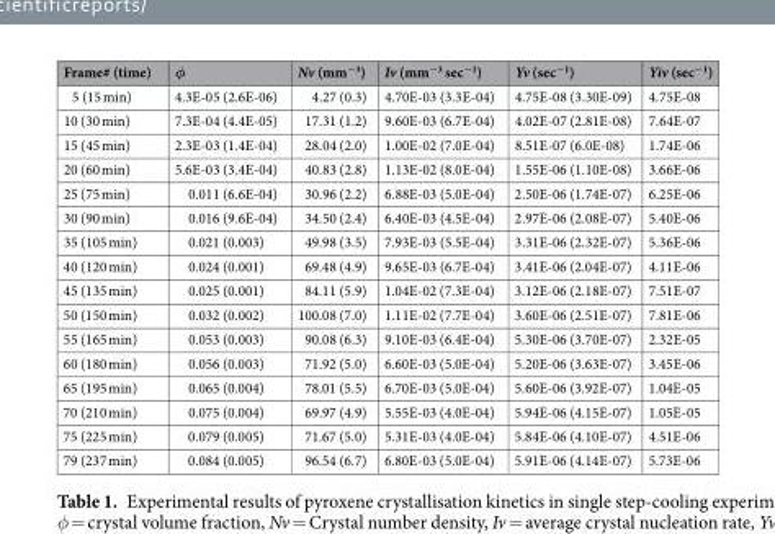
<table><thead><tr><td>Frame# (time)</td><td>φ</td><td>Nv (mm<sup>−3</sup>)</td><td>Iv (mm<sup>−3</sup> sec<sup>−1</sup>)</td><td>Yv (sec<sup>−1</sup>)</td><td>Yiv (sec<sup>−1</sup>)</td></tr></thead><tbody><tr><td>5 (15 min)</td><td>4.3E-05 (2.6E-06)</td><td>4.27 (0.3)</td><td>4.70E-03 (3.3E-04)</td><td>4.75E-08 (3.30E-09)</td><td>4.75E-08</td></tr><tr><td>10 (30 min)</td><td>7.3E-04 (4.4E-05)</td><td>17.31 (1.2)</td><td>9.60E-03 (6.7E-04)</td><td>4.02E-07 (2.81E-08)</td><td>7.64E-07</td></tr><tr><td>15 (45 min)</td><td>2.3E-03 (1.4E-04)</td><td>28.04 (2.0)</td><td>1.00E-02 (7.0E-04)</td><td>8.51E-07 (6.0E-08)</td><td>1.74E-06</td></tr><tr><td>20 (60 min)</td><td>5.6E-03 (3.4E-04)</td><td>40.83 (2.8)</td><td>1.13E-02 (8.0E-04)</td><td>1.55E-06 (1.10E-08)</td><td>3.66E-06</td></tr><tr><td>25 (75 min)</td><td>0.011 (6.6E-04)</td><td>30.96 (2.2)</td><td>6.88E-03 (5.0E-04)</td><td>2.50E-06 (1.74E-07)</td><td>6.25E-06</td></tr><tr><td>30 (90 min)</td><td>0.016 (9.6E-04)</td><td>34.50 (2.4)</td><td>6.40E-03 (4.5E-04)</td><td>2.97E-06 (2.08E-07)</td><td>5.40E-06</td></tr><tr><td>35 (105 min)</td><td>0.021 (0.003)</td><td>49.98 (3.5)</td><td>7.93E-03 (5.5E-04)</td><td>3.31E-06 (2.32E-07)</td><td>5.36E-06</td></tr><tr><td>40 (120 min)</td><td>0.024 (0.001)</td><td>69.48 (4.9)</td><td>9.65E-03 (6.7E-04)</td><td>3.41E-06 (2.04E-07)</td><td>4.11E-06</td></tr><tr><td>45 (135 min)</td><td>0.025 (0.001)</td><td>84.11 (5.9)</td><td>1.04E-02 (7.3E-04)</td><td>3.12E-06 (2.18E-07)</td><td>7.51E-07</td></tr><tr><td>50 (150 min)</td><td>0.032 (0.002)</td><td>100.08 (7.0)</td><td>1.11E-02 (7.7E-04)</td><td>3.60E-06 (2.51E-07)</td><td>7.81E-06</td></tr><tr><td>55 (165 min)</td><td>0.053 (0.003)</td><td>90.08 (6.3)</td><td>9.10E-03 (6.4E-04)</td><td>5.30E-06 (3.70E-07)</td><td>2.32E-05</td></tr><tr><td>60 (180 min)</td><td>0.056 (0.003)</td><td>71.92 (5.0)</td><td>6.60E-03 (5.0E-04)</td><td>5.20E-06 (3.63E-07)</td><td>3.45E-06</td></tr><tr><td>65 (195 min)</td><td>0.065 (0.004)</td><td>78.01 (5.5)</td><td>6.70E-03 (5.0E-04)</td><td>5.60E-06 (3.92E-07)</td><td>1.04E-05</td></tr><tr><td>70 (210 min)</td><td>0.075 (0.004)</td><td>69.97 (4.9)</td><td>5.55E-03 (4.0E-04)</td><td>5.94E-06 (4.15E-07)</td><td>1.05E-05</td></tr><tr><td>75 (225 min)</td><td>0.079 (0.005)</td><td>71.67 (5.0)</td><td>5.31E-03 (4.0E-04)</td><td>5.84E-06 (4.10E-07)</td><td>4.51E-06</td></tr><tr><td>79 (237 min)</td><td>0.084 (0.005)</td><td>96.54 (6.7)</td><td>6.80E-03 (5.0E-04)</td><td>5.91E-06 (4.14E-07)</td><td>5.73E-06</td></tr></tbody></table>